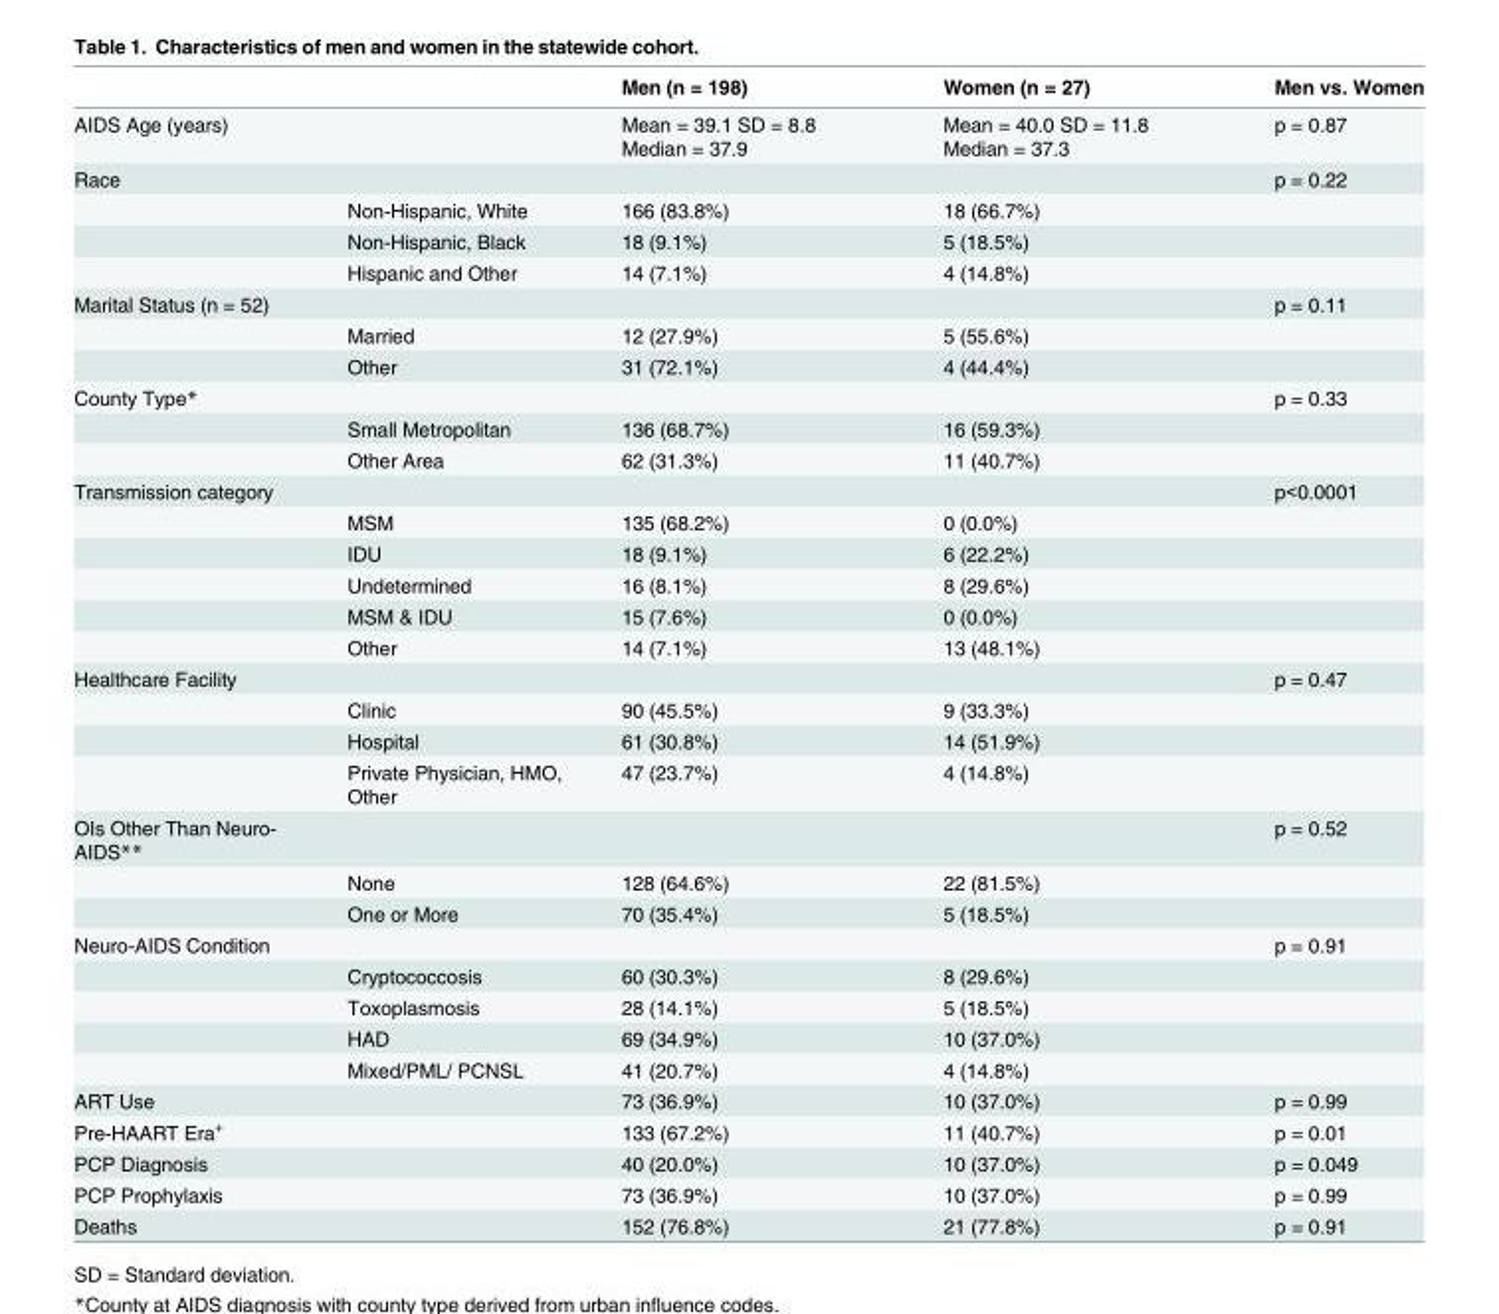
<table><thead><tr><td></td><td></td><td>Men (n = 198)</td><td>Women (n = 27)</td><td>Men vs. Women</td></tr></thead><tbody><tr><td>AIDS Age (years)</td><td></td><td>Mean = 39.1 SD = 8.8 Median = 37.9</td><td>Mean = 40.0 SD = 11.8 Median = 37.3</td><td>p = 0.87</td></tr><tr><td rowspan="4">Race</td><td></td><td></td><td></td><td>p = 0.22</td></tr><tr><td>Non-Hispanic, White</td><td>166 (83.8%)</td><td>18 (66.7%)</td><td></td></tr><tr><td>Non-Hispanic, Black</td><td>18 (9.1%)</td><td>5 (18.5%)</td><td></td></tr><tr><td>Hispanic and Other</td><td>14 (7.1%)</td><td>4 (14.8%)</td><td></td></tr><tr><td rowspan="3">Marital Status (n = 52)</td><td></td><td></td><td></td><td>p = 0.11</td></tr><tr><td>Married</td><td>12 (27.9%)</td><td>5 (55.6%)</td><td></td></tr><tr><td>Other</td><td>31 (72.1%)</td><td>4 (44.4%)</td><td></td></tr><tr><td rowspan="3">County Type*</td><td></td><td></td><td></td><td>p = 0.33</td></tr><tr><td>Small Metropolitan</td><td>136 (68.7%)</td><td>16 (59.3%)</td><td></td></tr><tr><td>Other Area</td><td>62 (31.3%)</td><td>11 (40.7%)</td><td></td></tr><tr><td rowspan="6">Transmission category</td><td></td><td></td><td></td><td>p&lt;0.0001</td></tr><tr><td>MSM</td><td>135 (68.2%)</td><td>0 (0.0%)</td><td></td></tr><tr><td>IDU</td><td>18 (9.1%)</td><td>6 (22.2%)</td><td></td></tr><tr><td>Undetermined</td><td>16 (8.1%)</td><td>8 (29.6%)</td><td></td></tr><tr><td>MSM &amp; IDU</td><td>15 (7.6%)</td><td>0 (0.0%)</td><td></td></tr><tr><td>Other</td><td>14 (7.1%)</td><td>13 (48.1%)</td><td></td></tr><tr><td rowspan="4">Healthcare Facility</td><td></td><td></td><td></td><td>p = 0.47</td></tr><tr><td>Clinic</td><td>90 (45.5%)</td><td>9 (33.3%)</td><td></td></tr><tr><td>Hospital</td><td>61 (30.8%)</td><td>14 (51.9%)</td><td></td></tr><tr><td>Private Physician, HMO, Other</td><td>47 (23.7%)</td><td>4 (14.8%)</td><td></td></tr><tr><td rowspan="3">OIs Other Than Neuro- AIDS**</td><td></td><td></td><td></td><td>p = 0.52</td></tr><tr><td>None</td><td>128 (64.6%)</td><td>22 (81.5%)</td><td></td></tr><tr><td>One or More</td><td>70 (35.4%)</td><td>5 (18.5%)</td><td></td></tr><tr><td rowspan="5">Neuro-AIDS Condition</td><td></td><td></td><td></td><td>p = 0.91</td></tr><tr><td>Cryptococcosis</td><td>60 (30.3%)</td><td>8 (29.6%)</td><td></td></tr><tr><td>Toxoplasmosis</td><td>28 (14.1%)</td><td>5 (18.5%)</td><td></td></tr><tr><td>HAD</td><td>69 (34.9%)</td><td>10 (37.0%)</td><td></td></tr><tr><td>Mixed/PML/ PCNSL</td><td>41 (20.7%)</td><td>4 (14.8%)</td><td></td></tr><tr><td>ART Use</td><td></td><td>73 (36.9%)</td><td>10 (37.0%)</td><td>p = 0.99</td></tr><tr><td>Pre-HAART Era<sup>+</sup></td><td></td><td>133 (67.2%)</td><td>11 (40.7%)</td><td>p = 0.01</td></tr><tr><td>PCP Diagnosis</td><td></td><td>40 (20.0%)</td><td>10 (37.0%)</td><td>p = 0.049</td></tr><tr><td>PCP Prophylaxis</td><td></td><td>73 (36.9%)</td><td>10 (37.0%)</td><td>p = 0.99</td></tr><tr><td>Deaths</td><td></td><td>152 (76.8%)</td><td>21 (77.8%)</td><td>p = 0.91</td></tr></tbody></table>